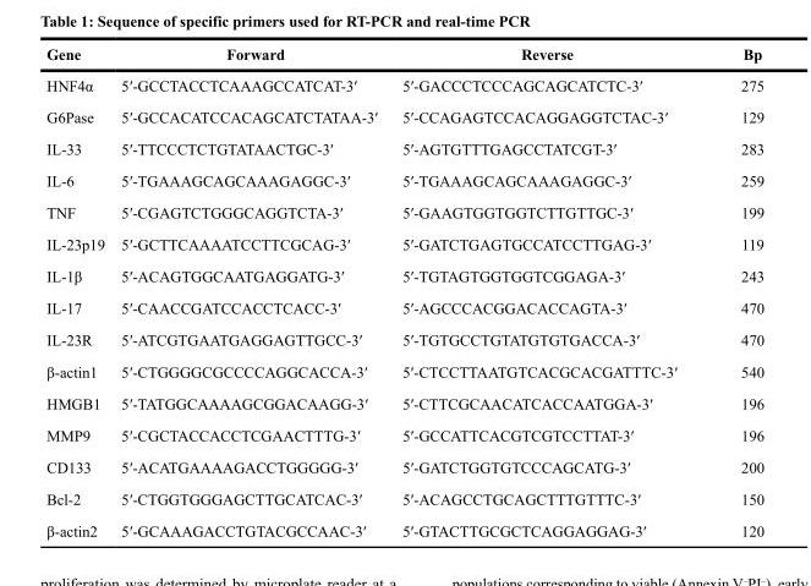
<table><thead><tr><td>Gene</td><td>Forward</td><td>Reverse</td><td>Bp</td></tr></thead><tbody><tr><td>HNF4α</td><td>5′-GCCTACCTCAAAGCCATCAT-3′</td><td>5′-GACCCTCCCAGCAGCATCTC-3′</td><td>275</td></tr><tr><td>G6Pase</td><td>5′-GCCACATCCACAGCATCTATAA-3′</td><td>5′-CCAGAGTCCACAGGAGGTCTAC-3′</td><td>129</td></tr><tr><td>IL-33</td><td>5′-TTCCCTCTGTATAACTGC-3′</td><td>5′-AGTGTTTGAGCCTATCGT-3′</td><td>283</td></tr><tr><td>IL-6</td><td>5′-TGAAAGCAGCAAAGAGGC-3′</td><td>5′-TGAAAGCAGCAAAGAGGC-3′</td><td>259</td></tr><tr><td>TNF</td><td>5′-CGAGTCTGGGCAGGTCTA-3′</td><td>5′-GAAGTGGTGGTCTTGTTGC-3′</td><td>199</td></tr><tr><td>IL-23p19</td><td>5′-GCTTCAAAATCCTTCGCAG-3′</td><td>5′-GATCTGAGTGCCATCCTTGAG-3′</td><td>119</td></tr><tr><td>IL-1β</td><td>5′-ACAGTGGCAATGAGGATG-3′</td><td>5′-TGTAGTGGTGGTCGGAGA-3′</td><td>243</td></tr><tr><td>IL-17</td><td>5′-CAACCGATCCACCTCACC-3′</td><td>5′-AGCCCACGGACACCAGTA-3′</td><td>470</td></tr><tr><td>IL-23R</td><td>5′-ATCGTGAATGAGGAGTTGCC-3′</td><td>5′-TGTGCCTGTATGTGTGACCA-3′</td><td>470</td></tr><tr><td>β-actin1</td><td>5′-CTGGGGCGCCCCAGGCACCA-3′</td><td>5′-CTCCTTAATGTCACGCACGATTTC-3′</td><td>540</td></tr><tr><td>HMGB1</td><td>5′-TATGGCAAAAGCGGACAAGG-3′</td><td>5′-CTTCGCAACATCACCAATGGA-3′</td><td>196</td></tr><tr><td>MMP9</td><td>5′-CGCTACCACCTCGAACTTTG-3′</td><td>5′-GCCATTCACGTCGTCCTTAT-3′</td><td>196</td></tr><tr><td>CD133</td><td>5′-ACATGAAAAGACCTGGGGG-3′</td><td>5′-GATCTGGTGTCCCAGCATG-3′</td><td>200</td></tr><tr><td>Bcl-2</td><td>5′-CTGGTGGGAGCTTGCATCAC-3′</td><td>5′-ACAGCCTGCAGCTTTGTTTC-3′</td><td>150</td></tr><tr><td>β-actin2</td><td>5′-GCAAAGACCTGTACGCCAAC-3′</td><td>5′-GTACTTGCGCTCAGGAGGAG-3′</td><td>120</td></tr></tbody></table>